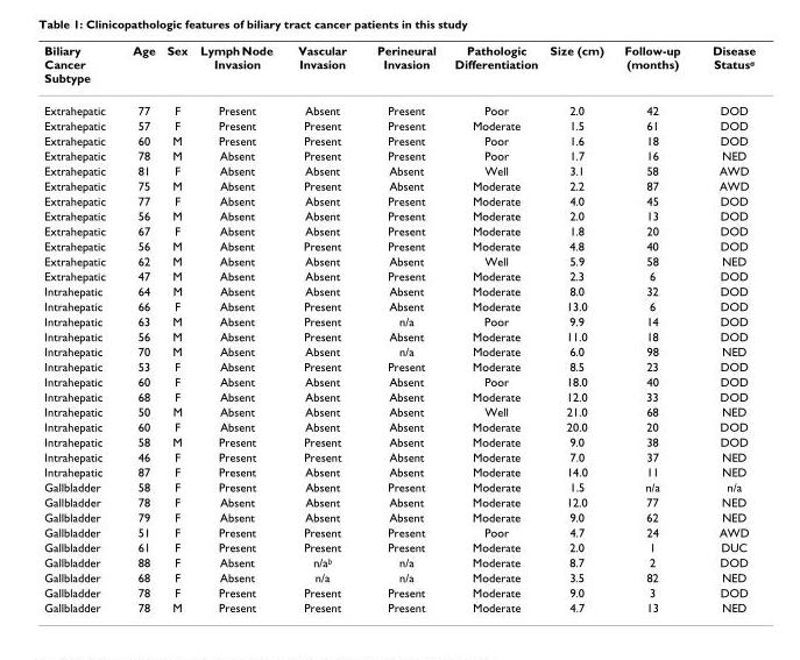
<table><thead><tr><td>Biliary Cancer Subtype</td><td>Age</td><td>Sex</td><td>Lymph Node Invasion</td><td>Vascular Invasion</td><td>Perineural Invasion</td><td>Pathologic Differentiation</td><td>Size (cm)</td><td>Follow-up (months)</td><td>Disease Status<sup>a</sup></td></tr></thead><tbody><tr><td>Extrahepatic</td><td>77</td><td>F</td><td>Present</td><td>Absent</td><td>Present</td><td>Poor</td><td>2.0</td><td>42</td><td>DOD</td></tr><tr><td>Extrahepatic</td><td>57</td><td>F</td><td>Present</td><td>Present</td><td>Present</td><td>Moderate</td><td>1.5</td><td>61</td><td>DOD</td></tr><tr><td>Extrahepatic</td><td>60</td><td>M</td><td>Present</td><td>Present</td><td>Present</td><td>Poor</td><td>1.6</td><td>18</td><td>DOD</td></tr><tr><td>Extrahepatic</td><td>78</td><td>M</td><td>Absent</td><td>Present</td><td>Present</td><td>Poor</td><td>1.7</td><td>16</td><td>NED</td></tr><tr><td>Extrahepatic</td><td>81</td><td>F</td><td>Absent</td><td>Absent</td><td>Absent</td><td>Well</td><td>3.1</td><td>58</td><td>AWD</td></tr><tr><td>Extrahepatic</td><td>75</td><td>M</td><td>Absent</td><td>Present</td><td>Absent</td><td>Moderate</td><td>2.2</td><td>87</td><td>AWD</td></tr><tr><td>Extrahepatic</td><td>77</td><td>F</td><td>Absent</td><td>Absent</td><td>Present</td><td>Moderate</td><td>4.0</td><td>45</td><td>DOD</td></tr><tr><td>Extrahepatic</td><td>56</td><td>M</td><td>Absent</td><td>Absent</td><td>Present</td><td>Moderate</td><td>2.0</td><td>13</td><td>DOD</td></tr><tr><td>Extrahepatic</td><td>67</td><td>F</td><td>Absent</td><td>Absent</td><td>Present</td><td>Moderate</td><td>1.8</td><td>20</td><td>DOD</td></tr><tr><td>Extrahepatic</td><td>56</td><td>M</td><td>Absent</td><td>Present</td><td>Present</td><td>Moderate</td><td>4.8</td><td>40</td><td>DOD</td></tr><tr><td>Extrahepatic</td><td>62</td><td>M</td><td>Absent</td><td>Absent</td><td>Absent</td><td>Well</td><td>5.9</td><td>58</td><td>NED</td></tr><tr><td>Extrahepatic</td><td>47</td><td>M</td><td>Absent</td><td>Absent</td><td>Present</td><td>Moderate</td><td>2.3</td><td>6</td><td>DOD</td></tr><tr><td>Intrahepatic</td><td>64</td><td>M</td><td>Absent</td><td>Absent</td><td>Absent</td><td>Moderate</td><td>8.0</td><td>32</td><td>DOD</td></tr><tr><td>Intrahepatic</td><td>66</td><td>F</td><td>Absent</td><td>Present</td><td>Absent</td><td>Moderate</td><td>13.0</td><td>6</td><td>DOD</td></tr><tr><td>Intrahepatic</td><td>63</td><td>M</td><td>Absent</td><td>Present</td><td>n/a</td><td>Poor</td><td>9.9</td><td>14</td><td>DOD</td></tr><tr><td>Intrahepatic</td><td>56</td><td>M</td><td>Absent</td><td>Present</td><td>Absent</td><td>Moderate</td><td>11.0</td><td>18</td><td>DOD</td></tr><tr><td>Intrahepatic</td><td>70</td><td>M</td><td>Absent</td><td>Absent</td><td>n/a</td><td>Moderate</td><td>6.0</td><td>98</td><td>NED</td></tr><tr><td>Intrahepatic</td><td>53</td><td>F</td><td>Absent</td><td>Present</td><td>Present</td><td>Moderate</td><td>8.5</td><td>23</td><td>DOD</td></tr><tr><td>Intrahepatic</td><td>60</td><td>F</td><td>Absent</td><td>Absent</td><td>Absent</td><td>Poor</td><td>18.0</td><td>40</td><td>DOD</td></tr><tr><td>Intrahepatic</td><td>68</td><td>F</td><td>Absent</td><td>Absent</td><td>Absent</td><td>Moderate</td><td>12.0</td><td>33</td><td>DOD</td></tr><tr><td>Intrahepatic</td><td>50</td><td>M</td><td>Absent</td><td>Absent</td><td>Absent</td><td>Well</td><td>21.0</td><td>68</td><td>NED</td></tr><tr><td>Intrahepatic</td><td>60</td><td>F</td><td>Absent</td><td>Absent</td><td>Absent</td><td>Moderate</td><td>20.0</td><td>20</td><td>DOD</td></tr><tr><td>Intrahepatic</td><td>58</td><td>M</td><td>Present</td><td>Present</td><td>Absent</td><td>Moderate</td><td>9.0</td><td>38</td><td>DOD</td></tr><tr><td>Intrahepatic</td><td>46</td><td>F</td><td>Present</td><td>Present</td><td>Absent</td><td>Moderate</td><td>7.0</td><td>37</td><td>NED</td></tr><tr><td>Intrahepatic</td><td>87</td><td>F</td><td>Present</td><td>Absent</td><td>Absent</td><td>Moderate</td><td>14.0</td><td>11</td><td>NED</td></tr><tr><td>Gallbladder</td><td>58</td><td>F</td><td>Present</td><td>Absent</td><td>Present</td><td>Moderate</td><td>1.5</td><td>n/a</td><td>n/a</td></tr><tr><td>Gallbladder</td><td>78</td><td>F</td><td>Absent</td><td>Absent</td><td>Absent</td><td>Moderate</td><td>12.0</td><td>77</td><td>NED</td></tr><tr><td>Gallbladder</td><td>79</td><td>F</td><td>Absent</td><td>Absent</td><td>Absent</td><td>Moderate</td><td>9.0</td><td>62</td><td>NED</td></tr><tr><td>Gallbladder</td><td>51</td><td>F</td><td>Present</td><td>Present</td><td>Present</td><td>Poor</td><td>4.7</td><td>24</td><td>AWD</td></tr><tr><td>Gallbladder</td><td>61</td><td>F</td><td>Present</td><td>Present</td><td>Present</td><td>Moderate</td><td>2.0</td><td>1</td><td>DUC</td></tr><tr><td>Gallbladder</td><td>88</td><td>F</td><td>Absent</td><td>n/a<sup>b</sup></td><td>n/a</td><td>Moderate</td><td>8.7</td><td>2</td><td>DOD</td></tr><tr><td>Gallbladder</td><td>68</td><td>F</td><td>Absent</td><td>n/a</td><td>n/a</td><td>Moderate</td><td>3.5</td><td>82</td><td>NED</td></tr><tr><td>Gallbladder</td><td>78</td><td>F</td><td>Present</td><td>Present</td><td>Present</td><td>Moderate</td><td>9.0</td><td>3</td><td>DOD</td></tr><tr><td>Gallbladder</td><td>78</td><td>M</td><td>Present</td><td>Present</td><td>Present</td><td>Moderate</td><td>4.7</td><td>13</td><td>NED</td></tr></tbody></table>